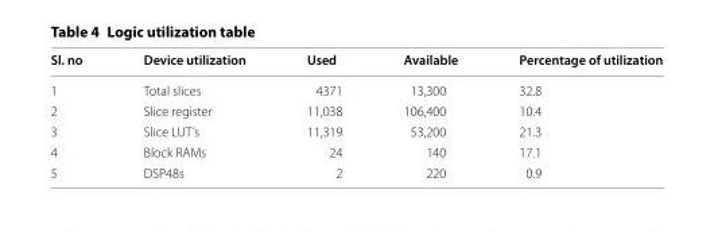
<table><thead><tr><td>Sl. no</td><td>Device utilization</td><td>Used</td><td>Available</td><td>Percentage of utilization</td></tr></thead><tbody><tr><td>1</td><td>Total slices</td><td>4371</td><td>13,300</td><td>32.8</td></tr><tr><td>2</td><td>Slice register</td><td>11,038</td><td>106,400</td><td>10.4</td></tr><tr><td>3</td><td>Slice LUT’s</td><td>11,319</td><td>53,200</td><td>21.3</td></tr><tr><td>4</td><td>Block RAMs</td><td>24</td><td>140</td><td>17.1</td></tr><tr><td>5</td><td>DSP48s</td><td>2</td><td>220</td><td>0.9</td></tr></tbody></table>